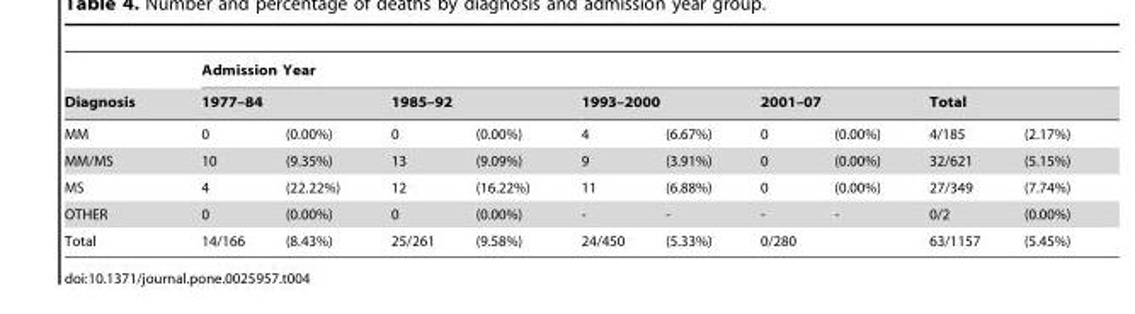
<table><thead><tr><td rowspan="3">Diagnosis MM</td><td colspan="10">Admission Year</td></tr><tr><td colspan="2">1977–84</td><td colspan="2">1985–92</td><td colspan="2">1993–2000</td><td colspan="2">2001–07</td><td colspan="2">Total</td></tr><tr><td>0</td><td>(0.00%)</td><td>0</td><td>(0.00%)</td><td>4</td><td>(6.67%)</td><td>0</td><td>(0.00%)</td><td>4/185</td><td>(2.17%)</td></tr></thead><tbody><tr><td>MM/MS</td><td>10</td><td>(9.35%)</td><td>13</td><td>(9.09%)</td><td>9</td><td>(3.91%)</td><td>0</td><td>(0.00%)</td><td>32/621</td><td>(5.15%)</td></tr><tr><td>MS</td><td>4</td><td>(22.22%)</td><td>12</td><td>(16.22%)</td><td>11</td><td>(6.88%)</td><td>0</td><td>(0.00%)</td><td>27/349</td><td>(7.74%)</td></tr><tr><td>OTHER</td><td>0</td><td>(0.00%)</td><td>0</td><td>(0.00%)</td><td>-</td><td>-</td><td>-</td><td>-</td><td>0/2</td><td>(0.00%)</td></tr><tr><td>Total</td><td>14/166</td><td>(8.43%)</td><td>25/261</td><td>(9.58%)</td><td>24/450</td><td>(5.33%)</td><td>0/280</td><td></td><td>63/1157</td><td>(5.45%)</td></tr></tbody></table>